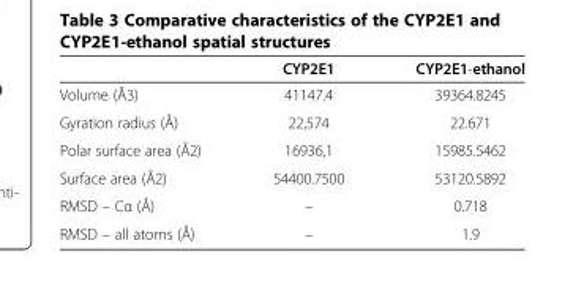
<table><thead><tr><td></td><td>CYP2E1</td><td>CYP2E1-ethanol</td></tr></thead><tbody><tr><td>Volume (Å3)</td><td>41147.4</td><td>39364.8245</td></tr><tr><td>Gyration radius (Å)</td><td>22,574</td><td>22.671</td></tr><tr><td>Polar surface area (Å2)</td><td>16936,1</td><td>15985.5462</td></tr><tr><td>Surface area (Å2)</td><td>54400.7500</td><td>53120.5892</td></tr><tr><td>RMSD – Cα (Å)</td><td>–</td><td>0.718</td></tr><tr><td>RMSD – all atoms (Å)</td><td>–</td><td>1.9</td></tr></tbody></table>